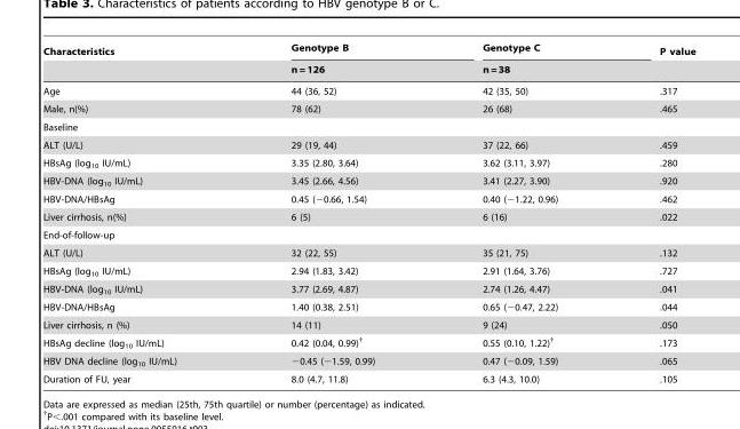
<table><thead><tr><td rowspan="2">Characteristics</td><td rowspan="2">Genotype B n = 126</td><td rowspan="2">Genotype C n = 38</td><td rowspan="2">P value</td></tr><tr></tr></thead><tbody><tr><td>Age</td><td>44 (36, 52)</td><td>42 (35, 50)</td><td>.317</td></tr><tr><td>Male, n(%)</td><td>78 (62)</td><td>26 (68)</td><td>.465</td></tr><tr><td colspan="4">Baseline</td></tr><tr><td>ALT (U/L)</td><td>29 (19, 44)</td><td>37 (22, 66)</td><td>.459</td></tr><tr><td>HBsAg (log<sub>10</sub> IU/mL)</td><td>3.35 (2.80, 3.64)</td><td>3.62 (3.11, 3.97)</td><td>.280</td></tr><tr><td>HBV-DNA (log<sub>10</sub> IU/mL)</td><td>3.45 (2.66, 4.56)</td><td>3.41 (2.27, 3.90)</td><td>.920</td></tr><tr><td>HBV-DNA/HBsAg</td><td>0.45 (−0.66, 1.54)</td><td>0.40 (−1.22, 0.96)</td><td>.462</td></tr><tr><td>Liver cirrhosis, n(%)</td><td>6 (5)</td><td>6 (16)</td><td>.022</td></tr><tr><td colspan="4">End-of-follow-up</td></tr><tr><td>ALT (U/L)</td><td>32 (22, 55)</td><td>35 (21, 75)</td><td>.132</td></tr><tr><td>HBsAg (log<sub>10</sub> IU/mL)</td><td>2.94 (1.83, 3.42)</td><td>2.91 (1.64, 3.76)</td><td>.727</td></tr><tr><td>HBV-DNA (log<sub>10</sub> IU/mL)</td><td>3.77 (2.69, 4.87)</td><td>2.74 (1.26, 4.47)</td><td>.041</td></tr><tr><td>HBV-DNA/HBsAg</td><td>1.40 (0.38, 2.51)</td><td>0.65 (−0.47, 2.22)</td><td>.044</td></tr><tr><td>Liver cirrhosis, n (%)</td><td>14 (11)</td><td>9 (24)</td><td>.050</td></tr><tr><td>HBsAg decline (log<sub>10</sub> IU/mL)</td><td>0.42 (0.04, 0.99)†</td><td>0.55 (0.10, 1.22)†</td><td>.173</td></tr><tr><td>HBV DNA decline (log<sub>10</sub> IU/mL)</td><td>−0.45 (−1.59, 0.99)</td><td>0.47 (−0.09, 1.59)</td><td>.065</td></tr><tr><td>Duration of FU, year</td><td>8.0 (4.7, 11.8)</td><td>6.3 (4.3, 10.0)</td><td>.105</td></tr></tbody></table>